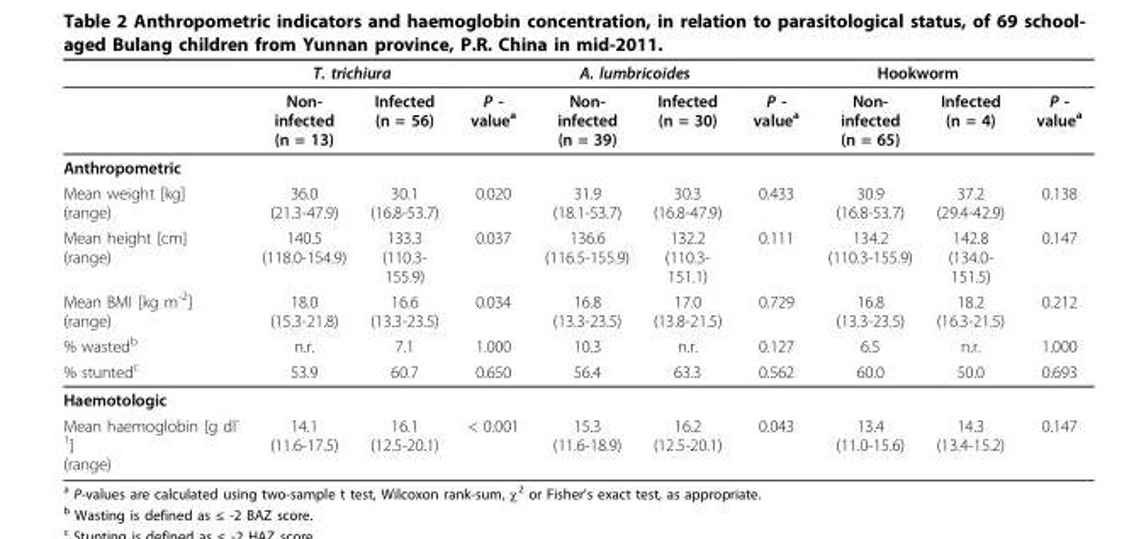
<table><thead><tr><td rowspan="2"></td><td colspan="2">T. trichiura</td><td rowspan="2">P - value<sup>a</sup></td><td colspan="2">A. lumbricoides</td><td rowspan="2">P - value<sup>a</sup></td><td colspan="2">Hookworm</td><td rowspan="2">P - value<sup>a</sup></td></tr><tr><td>Non- infected (n = 13)</td><td>Infected (n = 56)</td><td>Non- infected (n = 39)</td><td>Infected (n = 30)</td><td>Non- infected (n = 65)</td><td>Infected (n = 4)</td></tr></thead><tbody><tr><td colspan="10">Anthropometric</td></tr><tr><td>Mean weight [kg] (range)</td><td>36.0 (21.3-47.9)</td><td>30.1 (16.8-53.7)</td><td>0.020</td><td>31.9 (18.1-53.7)</td><td>30.3 (16.8-47.9)</td><td>0.433</td><td>30.9 (16.8-53.7)</td><td>37.2 (29.4-42.9)</td><td>0.138</td></tr><tr><td>Mean height [cm] (range)</td><td>140.5 (118.0-154.9)</td><td>133.3 (110.3- 155.9)</td><td>0.037</td><td>136.6 (116.5-155.9)</td><td>132.2 (110.3- 151.1)</td><td>0.111</td><td>134.2 (110.3-155.9)</td><td>142.8 (134.0- 151.5)</td><td>0.147</td></tr><tr><td>Mean BMI [kg m<sup>-2</sup>] (range)</td><td>18.0 (15.3-21.8)</td><td>16.6 (13.3-23.5)</td><td>0.034</td><td>16.8 (13.3-23.5)</td><td>17.0 (13.8-21.5)</td><td>0.729</td><td>16.8 (13.3-23.5)</td><td>18.2 (16.3-21.5)</td><td>0.212</td></tr><tr><td>% wasted<sup>b</sup></td><td>n.r.</td><td>7.1</td><td>1.000</td><td>10.3</td><td>n.r.</td><td>0.127</td><td>6.5</td><td>n.r.</td><td>1.000</td></tr><tr><td>% stunted<sup>c</sup></td><td>53.9</td><td>60.7</td><td>0.650</td><td>56.4</td><td>63.3</td><td>0.562</td><td>60.0</td><td>50.0</td><td>0.693</td></tr><tr><td colspan="10">Haemotologic</td></tr><tr><td>Mean haemoglobin [g dl<sup>- 1</sup>] (range)</td><td>14.1 (11.6-17.5)</td><td>16.1 (12.5-20.1)</td><td>&lt; 0.001</td><td>15.3 (11.6-18.9)</td><td>16.2 (12.5-20.1)</td><td>0.043</td><td>13.4 (11.0-15.6)</td><td>14.3 (13.4-15.2)</td><td>0.147</td></tr></tbody></table>